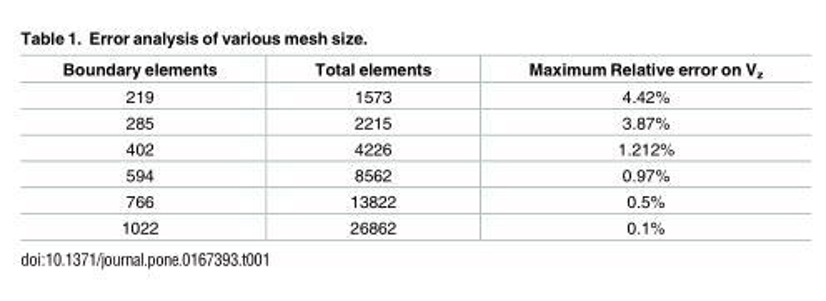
<table><thead><tr><td>Boundary elements</td><td>Total elements</td><td>Maximum Relative error on V<sub>z</sub></td></tr></thead><tbody><tr><td>219</td><td>1573</td><td>4.42%</td></tr><tr><td>285</td><td>2215</td><td>3.87%</td></tr><tr><td>402</td><td>4226</td><td>1.212%</td></tr><tr><td>594</td><td>8562</td><td>0.97%</td></tr><tr><td>766</td><td>13822</td><td>0.5%</td></tr><tr><td>1022</td><td>26862</td><td>0.1%</td></tr></tbody></table>